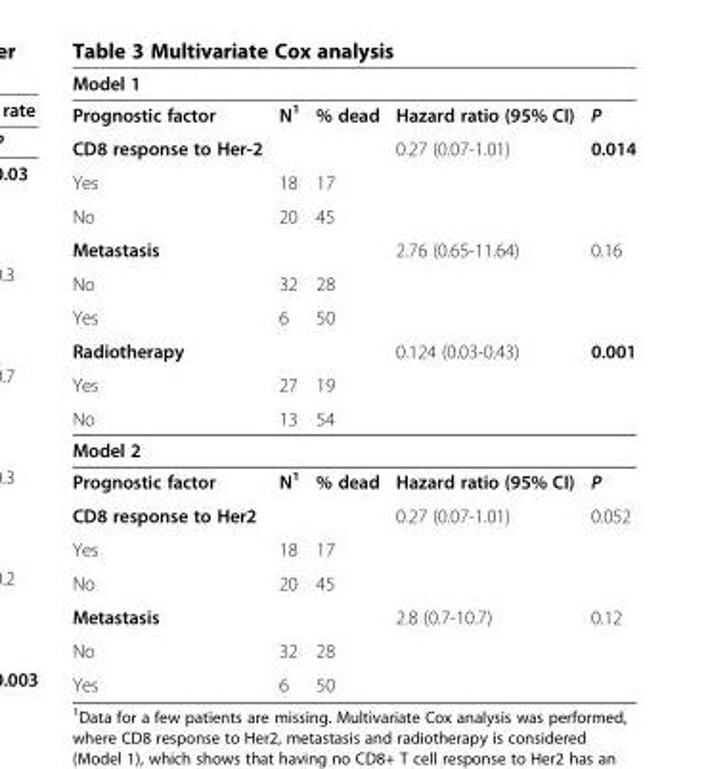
<table><thead><tr><td colspan="5">Model 1</td></tr><tr><td>Prognostic factor</td><td>N<sup>1</sup></td><td>% dead</td><td>Hazard ratio (95% CI)</td><td>P</td></tr></thead><tbody><tr><td>CD8 response to Her-2</td><td></td><td></td><td>0.27 (0.07-1.01)</td><td>0.014</td></tr><tr><td>Yes</td><td>18</td><td>17</td><td></td><td></td></tr><tr><td>No</td><td>20</td><td>45</td><td></td><td></td></tr><tr><td>Metastasis</td><td></td><td></td><td>2.76 (0.65-11.64)</td><td>0.16</td></tr><tr><td>No</td><td>32</td><td>28</td><td></td><td></td></tr><tr><td>Yes</td><td>6</td><td>50</td><td></td><td></td></tr><tr><td>Radiotherapy</td><td></td><td></td><td>0.124 (0.03-0.43)</td><td>0.001</td></tr><tr><td>Yes</td><td>27</td><td>19</td><td></td><td></td></tr><tr><td>No</td><td>13</td><td>54</td><td></td><td></td></tr><tr><td colspan="5">Model 2</td></tr><tr><td>Prognostic factor</td><td>N<sup>1</sup></td><td>% dead</td><td>Hazard ratio (95% CI)</td><td>P</td></tr><tr><td>CD8 response to Her2</td><td></td><td></td><td>0.27 (0.07-1.01)</td><td>0.052</td></tr><tr><td>Yes</td><td>18</td><td>17</td><td></td><td></td></tr><tr><td>No</td><td>20</td><td>45</td><td></td><td></td></tr><tr><td>Metastasis</td><td></td><td></td><td>2.8 (0.7-10.7)</td><td>0.12</td></tr><tr><td>No</td><td>32</td><td>28</td><td></td><td></td></tr><tr><td>Yes</td><td>6</td><td>50</td><td></td><td></td></tr></tbody></table>